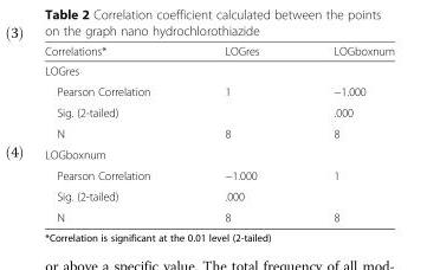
<table><thead><tr><td>Correlations*</td><td>LOGres</td><td>LOGboxnum</td></tr></thead><tbody><tr><td colspan="3">LOGres</td></tr><tr><td>Pearson Correlation</td><td>1</td><td>−1.000</td></tr><tr><td>Sig. (2-tailed)</td><td></td><td>.000</td></tr><tr><td>N</td><td>8</td><td>8</td></tr><tr><td colspan="3">LOGboxnum</td></tr><tr><td>Pearson Correlation</td><td>−1.000</td><td>1</td></tr><tr><td>Sig. (2-tailed)</td><td>.000</td><td></td></tr><tr><td>N</td><td>8</td><td>8</td></tr></tbody></table>